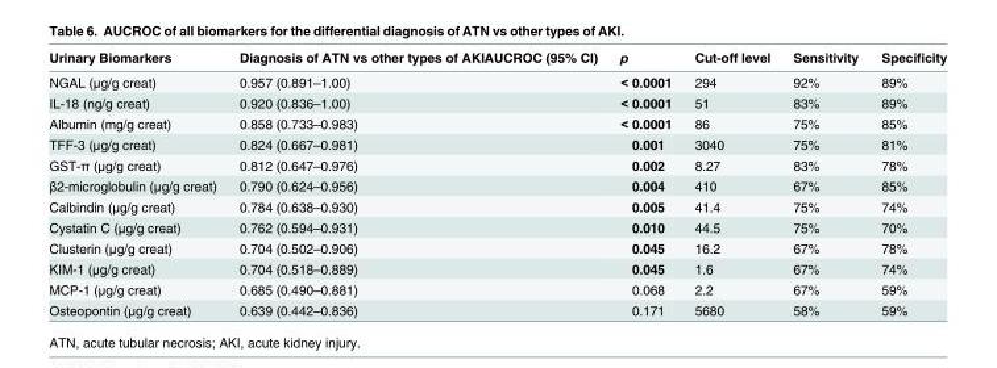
<table><thead><tr><td>Urinary Biomarkers</td><td>Diagnosis of ATN vs other types of AKIAUCROC (95% CI)</td><td>p</td><td>Cut-off level</td><td>Sensitivity</td><td>Specificity</td></tr></thead><tbody><tr><td>NGAL (μg/g creat)</td><td>0.957 (0.891–1.00)</td><td>&lt; 0.0001</td><td>294</td><td>92%</td><td>89%</td></tr><tr><td>IL-18 (ng/g creat)</td><td>0.920 (0.836–1.00)</td><td>&lt; 0.0001</td><td>51</td><td>83%</td><td>89%</td></tr><tr><td>Albumin (mg/g creat)</td><td>0.858 (0.733–0.983)</td><td>&lt; 0.0001</td><td>86</td><td>75%</td><td>85%</td></tr><tr><td>TFF-3 (μg/g creat)</td><td>0.824 (0.667–0.981)</td><td>0.001</td><td>3040</td><td>75%</td><td>81%</td></tr><tr><td>GST-π (μg/g creat)</td><td>0.812 (0.647–0.976)</td><td>0.002</td><td>8.27</td><td>83%</td><td>78%</td></tr><tr><td>β2-microglobulin (μg/g creat)</td><td>0.790 (0.624–0.956)</td><td>0.004</td><td>410</td><td>67%</td><td>85%</td></tr><tr><td>Calbindin (μg/g creat)</td><td>0.784 (0.638–0.930)</td><td>0.005</td><td>41.4</td><td>75%</td><td>74%</td></tr><tr><td>Cystatin C (μg/g creat)</td><td>0.762 (0.594–0.931)</td><td>0.010</td><td>44.5</td><td>75%</td><td>70%</td></tr><tr><td>Clusterin (μg/g creat)</td><td>0.704 (0.502–0.906)</td><td>0.045</td><td>16.2</td><td>67%</td><td>78%</td></tr><tr><td>KIM-1 (μg/g creat)</td><td>0.704 (0.518–0.889)</td><td>0.045</td><td>1.6</td><td>67%</td><td>74%</td></tr><tr><td>MCP-1 (μg/g creat)</td><td>0.685 (0.490–0.881)</td><td>0.068</td><td>2.2</td><td>67%</td><td>59%</td></tr><tr><td>Osteopontin (μg/g creat)</td><td>0.639 (0.442–0.836)</td><td>0.171</td><td>5680</td><td>58%</td><td>59%</td></tr></tbody></table>